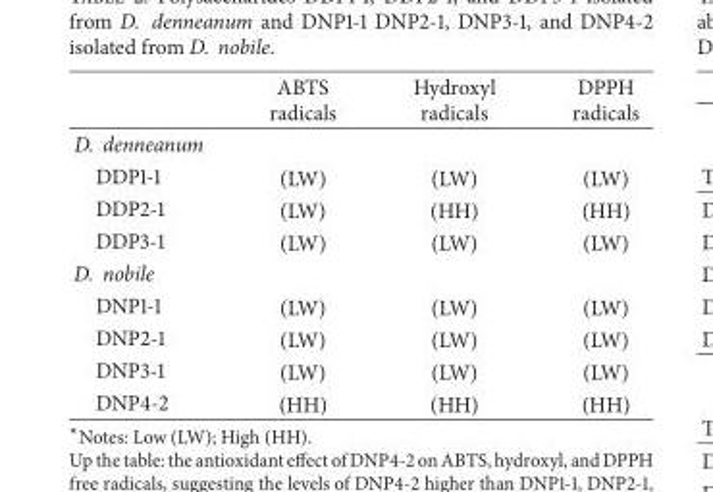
<table><thead><tr><td></td><td>ABTS radicals</td><td>Hydroxyl radicals</td><td>DPPH radicals</td></tr></thead><tbody><tr><td colspan="4">D. denneanum</td></tr><tr><td>DDP1-1</td><td>(LW)</td><td>(LW)</td><td>(LW)</td></tr><tr><td>DDP2-1</td><td>(LW)</td><td>(HH)</td><td>(HH)</td></tr><tr><td>DDP3-1</td><td>(LW)</td><td>(LW)</td><td>(LW)</td></tr><tr><td colspan="4">D. nobile</td></tr><tr><td>DNP1-1</td><td>(LW)</td><td>(LW)</td><td>(LW)</td></tr><tr><td>DNP2-1</td><td>(LW)</td><td>(LW)</td><td>(LW)</td></tr><tr><td>DNP3-1</td><td>(LW)</td><td>(LW)</td><td>(LW)</td></tr><tr><td>DNP4-2</td><td>(HH)</td><td>(HH)</td><td>(HH)</td></tr></tbody></table>